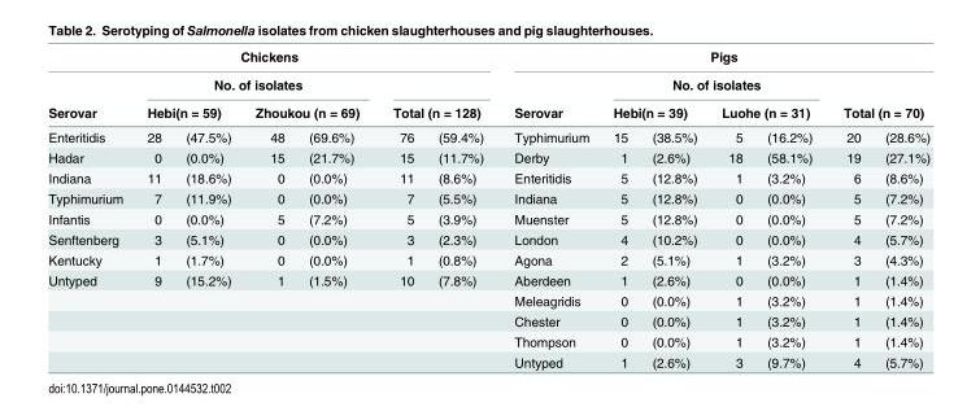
<table><thead><tr><td colspan="7">Chickens</td><td colspan="7">Pigs</td></tr><tr><td rowspan="3">Serovar Enteritidis</td><td colspan="4">No. of isolates</td><td></td><td></td><td rowspan="3">Serovar Typhimurium</td><td colspan="4">No. of isolates</td><td></td><td></td></tr><tr><td colspan="2">Hebi(n = 59)</td><td colspan="2">Zhoukou (n = 69)</td><td colspan="2">Total (n = 128)</td><td colspan="2">Hebi(n = 39)</td><td colspan="2">Luohe (n = 31)</td><td colspan="2">Total (n = 70)</td></tr><tr><td>28</td><td>(47.5%)</td><td>48</td><td>(69.6%)</td><td>76</td><td>(59.4%)</td><td>15</td><td>(38.5%)</td><td>5</td><td>(16.2%)</td><td>20</td><td>(28.6%)</td></tr></thead><tbody><tr><td>Hadar</td><td>0</td><td>(0.0%)</td><td>15</td><td>(21.7%)</td><td>15</td><td>(11.7%)</td><td>Derby</td><td>1</td><td>(2.6%)</td><td>18</td><td>(58.1%)</td><td>19</td><td>(27.1%)</td></tr><tr><td>Indiana</td><td>11</td><td>(18.6%)</td><td>0</td><td>(0.0%)</td><td>11</td><td>(8.6%)</td><td>Enteritidis</td><td>5</td><td>(12.8%)</td><td>1</td><td>(3.2%)</td><td>6</td><td>(8.6%)</td></tr><tr><td>Typhimurium</td><td>7</td><td>(11.9%)</td><td>0</td><td>(0.0%)</td><td>7</td><td>(5.5%)</td><td>Indiana</td><td>5</td><td>(12.8%)</td><td>0</td><td>(0.0%)</td><td>5</td><td>(7.2%)</td></tr><tr><td>Infantis</td><td>0</td><td>(0.0%)</td><td>5</td><td>(7.2%)</td><td>5</td><td>(3.9%)</td><td>Muenster</td><td>5</td><td>(12.8%)</td><td>0</td><td>(0.0%)</td><td>5</td><td>(7.2%)</td></tr><tr><td>Senftenberg</td><td>3</td><td>(5.1%)</td><td>0</td><td>(0.0%)</td><td>3</td><td>(2.3%)</td><td>London</td><td>4</td><td>(10.2%)</td><td>0</td><td>(0.0%)</td><td>4</td><td>(5.7%)</td></tr><tr><td>Kentucky</td><td>1</td><td>(1.7%)</td><td>0</td><td>(0.0%)</td><td>1</td><td>(0.8%)</td><td>Agona</td><td>2</td><td>(5.1%)</td><td>1</td><td>(3.2%)</td><td>3</td><td>(4.3%)</td></tr><tr><td rowspan="5">Untyped</td><td>9</td><td>(15.2%)</td><td>1</td><td>(1.5%)</td><td>10</td><td>(7.8%)</td><td>Aberdeen</td><td>1</td><td>(2.6%)</td><td>0</td><td>(0.0%)</td><td>1</td><td>(1.4%)</td></tr><tr><td></td><td></td><td></td><td></td><td></td><td></td><td>Meleagridis</td><td>0</td><td>(0.0%)</td><td>1</td><td>(3.2%)</td><td>1</td><td>(1.4%)</td></tr><tr><td></td><td></td><td></td><td></td><td></td><td></td><td>Chester</td><td>0</td><td>(0.0%)</td><td>1</td><td>(3.2%)</td><td>1</td><td>(1.4%)</td></tr><tr><td></td><td></td><td></td><td></td><td></td><td></td><td>Thompson</td><td>0</td><td>(0.0%)</td><td>1</td><td>(3.2%)</td><td>1</td><td>(1.4%)</td></tr><tr><td></td><td></td><td></td><td></td><td></td><td></td><td>Untyped</td><td>1</td><td>(2.6%)</td><td>3</td><td>(9.7%)</td><td>4</td><td>(5.7%)</td></tr></tbody></table>